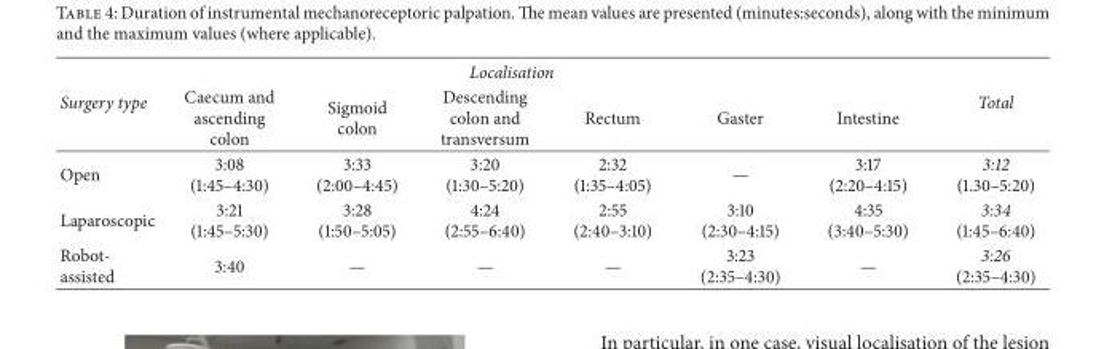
<table><thead><tr><td rowspan="2">Surgery type</td><td colspan="6">Localisation</td><td rowspan="2">Total</td></tr><tr><td>Caecum and ascending colon</td><td>Sigmoid colon</td><td>Descending colon and transversum</td><td>Rectum</td><td>Gaster</td><td>Intestine</td></tr></thead><tbody><tr><td>Open</td><td>3:08 (1:45–4:30)</td><td>3:33 (2:00–4:45)</td><td>3:20 (1:30–5:20)</td><td>2:32 (1:35–4:05)</td><td>—</td><td>3:17 (2:20–4:15)</td><td>3:12 (1.30–5:20)</td></tr><tr><td>Laparoscopic</td><td>3:21 (1:45–5:30)</td><td>3:28 (1:50–5:05)</td><td>4:24 (2:55–6:40)</td><td>2:55 (2:40–3:10)</td><td>3:10 (2:30–4:15)</td><td>4:35 (3:40–5:30)</td><td>3:34 (1:45–6:40)</td></tr><tr><td>Robot- assisted</td><td>3:40</td><td>—</td><td>—</td><td>—</td><td>3:23 (2:35–4:30)</td><td>—</td><td>3:26 (2:35–4:30)</td></tr></tbody></table>